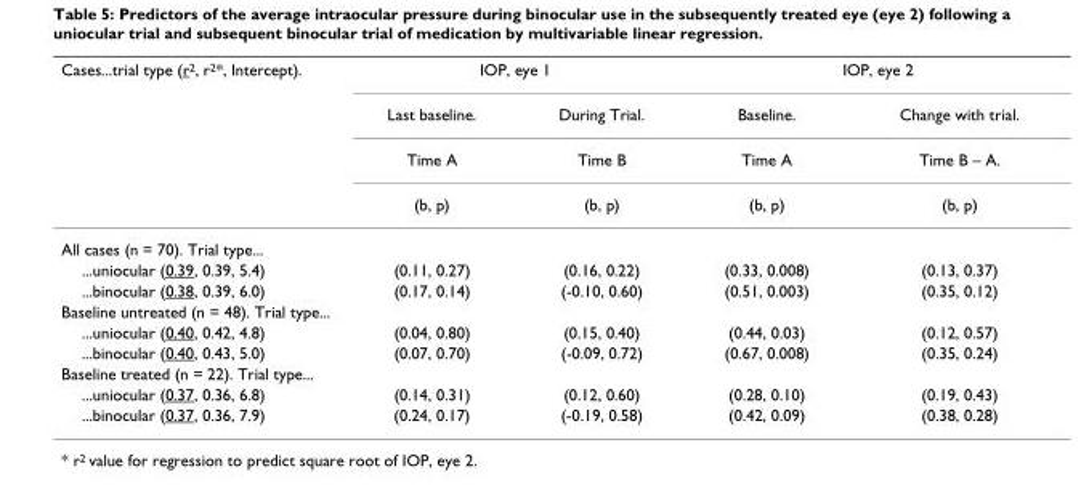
<table><thead><tr><td rowspan="4">Cases...trial type (r<sup>2</sup>, r<sup>2</sup>*, Intercept).</td><td colspan="2">IOP, eye 1</td><td colspan="2">IOP, eye 2</td></tr><tr><td rowspan="3">Last baseline. Time A (b, p)</td><td rowspan="3">During Trial. Time B (b, p)</td><td rowspan="3">Baseline. Time A (b, p)</td><td rowspan="3">Change with trial. Time B – A. (b, p)</td></tr><tr></tr><tr></tr></thead><tbody><tr><td colspan="5">All cases (n = 70). Trial type...</td></tr><tr><td>...uniocular (0.39, 0.39, 5.4)</td><td>(0.11, 0.27)</td><td>(0.16, 0.22)</td><td>(0.33, 0.008)</td><td>(0.13, 0.37)</td></tr><tr><td>...binocular (0.38, 0.39, 6.0)</td><td>(0.17, 0.14)</td><td>(-0.10, 0.60)</td><td>(0.51, 0.003)</td><td>(0.35, 0.12)</td></tr><tr><td colspan="5">Baseline untreated (n = 48). Trial type...</td></tr><tr><td>...uniocular (0.40, 0.42, 4.8)</td><td>(0.04, 0.80)</td><td>(0.15, 0.40)</td><td>(0.44, 0.03)</td><td>(0.12, 0.57)</td></tr><tr><td>...binocular (0.40, 0.43, 5.0)</td><td>(0.07, 0.70)</td><td>(-0.09, 0.72)</td><td>(0.67, 0.008)</td><td>(0.35, 0.24)</td></tr><tr><td colspan="5">Baseline treated (n = 22). Trial type...</td></tr><tr><td>...uniocular (0.37, 0.36, 6.8)</td><td>(0.14, 0.31)</td><td>(0.12, 0.60)</td><td>(0.28, 0.10)</td><td>(0.19, 0.43)</td></tr><tr><td>...binocular (0.37, 0.36, 7.9)</td><td>(0.24, 0.17)</td><td>(-0.19, 0.58)</td><td>(0.42, 0.09)</td><td>(0.38, 0.28)</td></tr></tbody></table>